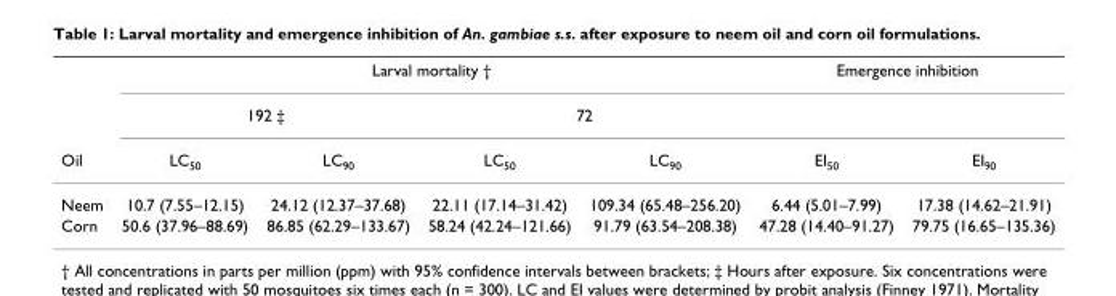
<table><thead><tr><td rowspan="3">Oil</td><td colspan="4">Larval mortality †</td><td colspan="2">Emergence inhibition</td></tr><tr><td colspan="2">192 ‡</td><td colspan="2">72</td><td rowspan="2">EI<sub>50</sub></td><td rowspan="2">EI<sub>90</sub></td></tr><tr><td>LC<sub>50</sub></td><td>LC<sub>90</sub></td><td>LC<sub>50</sub></td><td>LC<sub>90</sub></td></tr></thead><tbody><tr><td>Neem</td><td>10.7 (7.55–12.15)</td><td>24.12 (12.37–37.68)</td><td>22.11 (17.14–31.42)</td><td>109.34 (65.48–256.20)</td><td>6.44 (5.01–7.99)</td><td>17.38 (14.62–21.91)</td></tr><tr><td>Corn</td><td>50.6 (37.96–88.69)</td><td>86.85 (62.29–133.67)</td><td>58.24 (42.24–121.66)</td><td>91.79 (63.54–208.38)</td><td>47.28 (14.40–91.27)</td><td>79.75 (16.65–135.36)</td></tr></tbody></table>